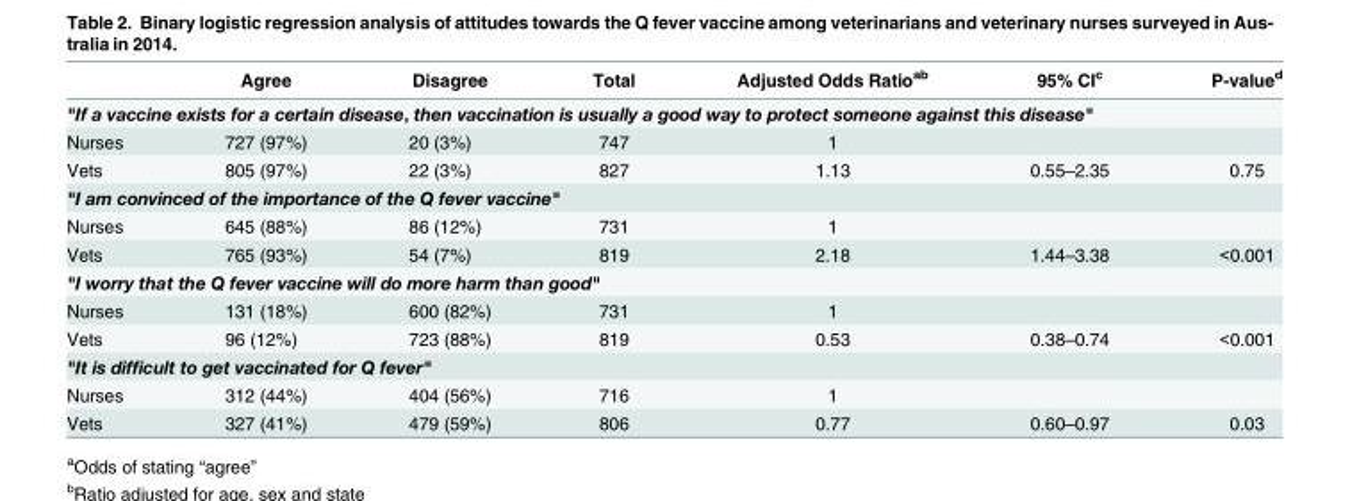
<table><thead><tr><td></td><td>Agree</td><td>Disagree</td><td>Total</td><td>Adjusted Odds Ratio<sup>ab</sup></td><td>95% CI<sup>c</sup></td><td>P-value<sup>d</sup></td></tr></thead><tbody><tr><td colspan="7">&quot;If a vaccine exists for a certain disease, then vaccination is usually a good way to protect someone against this disease&quot;</td></tr><tr><td>Nurses</td><td>727 (97%)</td><td>20 (3%)</td><td>747</td><td>1</td><td></td><td></td></tr><tr><td>Vets</td><td>805 (97%)</td><td>22 (3%)</td><td>827</td><td>1.13</td><td>0.55–2.35</td><td>0.75</td></tr><tr><td colspan="7">&quot;I am convinced of the importance of the Q fever vaccine&quot;</td></tr><tr><td>Nurses</td><td>645 (88%)</td><td>86 (12%)</td><td>731</td><td>1</td><td></td><td></td></tr><tr><td>Vets</td><td>765 (93%)</td><td>54 (7%)</td><td>819</td><td>2.18</td><td>1.44–3.38</td><td>&lt;0.001</td></tr><tr><td colspan="7">&quot;I worry that the Q fever vaccine will do more harm than good&quot;</td></tr><tr><td>Nurses</td><td>131 (18%)</td><td>600 (82%)</td><td>731</td><td>1</td><td></td><td></td></tr><tr><td>Vets</td><td>96 (12%)</td><td>723 (88%)</td><td>819</td><td>0.53</td><td>0.38–0.74</td><td>&lt;0.001</td></tr><tr><td colspan="7">&quot;It is difficult to get vaccinated for Q fever&quot;</td></tr><tr><td>Nurses</td><td>312 (44%)</td><td>404 (56%)</td><td>716</td><td>1</td><td></td><td></td></tr><tr><td>Vets</td><td>327 (41%)</td><td>479 (59%)</td><td>806</td><td>0.77</td><td>0.60–0.97</td><td>0.03</td></tr></tbody></table>